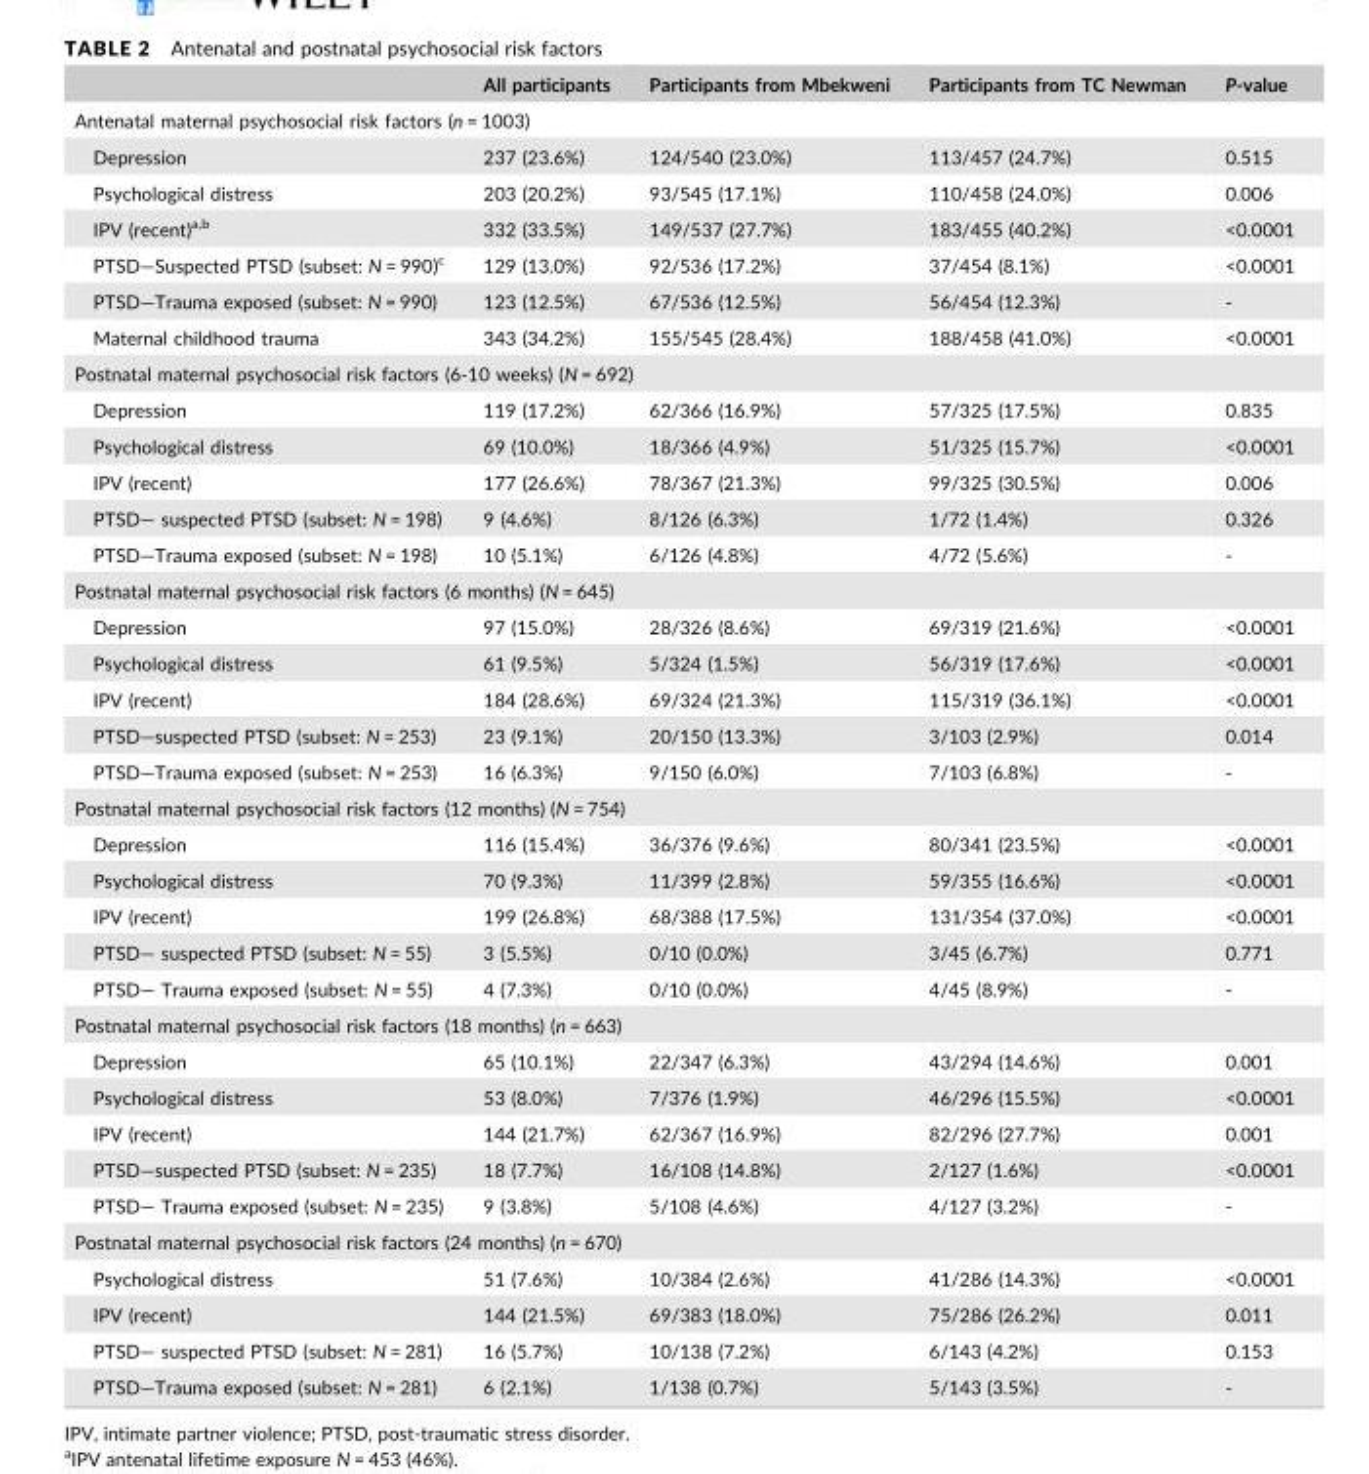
<table><thead><tr><td></td><td>All participants</td><td>Participants from Mbekweni</td><td>Participants from TC Newman</td><td>P-value</td></tr></thead><tbody><tr><td colspan="5">Antenatal maternal psychosocial risk factors (n = 1003)</td></tr><tr><td>Depression</td><td>237 (23.6%)</td><td>124/540 (23.0%)</td><td>113/457 (24.7%)</td><td>0.515</td></tr><tr><td>Psychological distress</td><td>203 (20.2%)</td><td>93/545 (17.1%)</td><td>110/458 (24.0%)</td><td>0.006</td></tr><tr><td>IPV (recent)<sup>a</sup>,<sup>b</sup></td><td>332 (33.5%)</td><td>149/537 (27.7%)</td><td>183/455 (40.2%)</td><td>&lt;0.0001</td></tr><tr><td>PTSD—Suspected PTSD (subset: N = 990)<sup>c</sup></td><td>129 (13.0%)</td><td>92/536 (17.2%)</td><td>37/454 (8.1%)</td><td>&lt;0.0001</td></tr><tr><td>PTSD—Trauma exposed (subset: N = 990)</td><td>123 (12.5%)</td><td>67/536 (12.5%)</td><td>56/454 (12.3%)</td><td>-</td></tr><tr><td>Maternal childhood trauma</td><td>343 (34.2%)</td><td>155/545 (28.4%)</td><td>188/458 (41.0%)</td><td>&lt;0.0001</td></tr><tr><td colspan="5">Postnatal maternal psychosocial risk factors (6-10 weeks) (N = 692)</td></tr><tr><td>Depression</td><td>119 (17.2%)</td><td>62/366 (16.9%)</td><td>57/325 (17.5%)</td><td>0.835</td></tr><tr><td>Psychological distress</td><td>69 (10.0%)</td><td>18/366 (4.9%)</td><td>51/325 (15.7%)</td><td>&lt;0.0001</td></tr><tr><td>IPV (recent)</td><td>177 (26.6%)</td><td>78/367 (21.3%)</td><td>99/325 (30.5%)</td><td>0.006</td></tr><tr><td>PTSD— suspected PTSD (subset: N = 198)</td><td>9 (4.6%)</td><td>8/126 (6.3%)</td><td>1/72 (1.4%)</td><td>0.326</td></tr><tr><td>PTSD—Trauma exposed (subset: N = 198)</td><td>10 (5.1%)</td><td>6/126 (4.8%)</td><td>4/72 (5.6%)</td><td>-</td></tr><tr><td colspan="5">Postnatal maternal psychosocial risk factors (6 months) (N = 645)</td></tr><tr><td>Depression</td><td>97 (15.0%)</td><td>28/326 (8.6%)</td><td>69/319 (21.6%)</td><td>&lt;0.0001</td></tr><tr><td>Psychological distress</td><td>61 (9.5%)</td><td>5/324 (1.5%)</td><td>56/319 (17.6%)</td><td>&lt;0.0001</td></tr><tr><td>IPV (recent)</td><td>184 (28.6%)</td><td>69/324 (21.3%)</td><td>115/319 (36.1%)</td><td>&lt;0.0001</td></tr><tr><td>PTSD—suspected PTSD (subset: N = 253)</td><td>23 (9.1%)</td><td>20/150 (13.3%)</td><td>3/103 (2.9%)</td><td>0.014</td></tr><tr><td>PTSD—Trauma exposed (subset: N = 253)</td><td>16 (6.3%)</td><td>9/150 (6.0%)</td><td>7/103 (6.8%)</td><td>-</td></tr><tr><td colspan="5">Postnatal maternal psychosocial risk factors (12 months) (N = 754)</td></tr><tr><td>Depression</td><td>116 (15.4%)</td><td>36/376 (9.6%)</td><td>80/341 (23.5%)</td><td>&lt;0.0001</td></tr><tr><td>Psychological distress</td><td>70 (9.3%)</td><td>11/399 (2.8%)</td><td>59/355 (16.6%)</td><td>&lt;0.0001</td></tr><tr><td>IPV (recent)</td><td>199 (26.8%)</td><td>68/388 (17.5%)</td><td>131/354 (37.0%)</td><td>&lt;0.0001</td></tr><tr><td>PTSD— suspected PTSD (subset: N = 55)</td><td>3 (5.5%)</td><td>0/10 (0.0%)</td><td>3/45 (6.7%)</td><td>0.771</td></tr><tr><td>PTSD— Trauma exposed (subset: N = 55)</td><td>4 (7.3%)</td><td>0/10 (0.0%)</td><td>4/45 (8.9%)</td><td>-</td></tr><tr><td colspan="5">Postnatal maternal psychosocial risk factors (18 months) (n = 663)</td></tr><tr><td>Depression</td><td>65 (10.1%)</td><td>22/347 (6.3%)</td><td>43/294 (14.6%)</td><td>0.001</td></tr><tr><td>Psychological distress</td><td>53 (8.0%)</td><td>7/376 (1.9%)</td><td>46/296 (15.5%)</td><td>&lt;0.0001</td></tr><tr><td>IPV (recent)</td><td>144 (21.7%)</td><td>62/367 (16.9%)</td><td>82/296 (27.7%)</td><td>0.001</td></tr><tr><td>PTSD—suspected PTSD (subset: N = 235)</td><td>18 (7.7%)</td><td>16/108 (14.8%)</td><td>2/127 (1.6%)</td><td>&lt;0.0001</td></tr><tr><td>PTSD— Trauma exposed (subset: N = 235)</td><td>9 (3.8%)</td><td>5/108 (4.6%)</td><td>4/127 (3.2%)</td><td>-</td></tr><tr><td colspan="5">Postnatal maternal psychosocial risk factors (24 months) (n = 670)</td></tr><tr><td>Psychological distress</td><td>51 (7.6%)</td><td>10/384 (2.6%)</td><td>41/286 (14.3%)</td><td>&lt;0.0001</td></tr><tr><td>IPV (recent)</td><td>144 (21.5%)</td><td>69/383 (18.0%)</td><td>75/286 (26.2%)</td><td>0.011</td></tr><tr><td>PTSD— suspected PTSD (subset: N = 281)</td><td>16 (5.7%)</td><td>10/138 (7.2%)</td><td>6/143 (4.2%)</td><td>0.153</td></tr><tr><td>PTSD—Trauma exposed (subset: N = 281)</td><td>6 (2.1%)</td><td>1/138 (0.7%)</td><td>5/143 (3.5%)</td><td>-</td></tr></tbody></table>